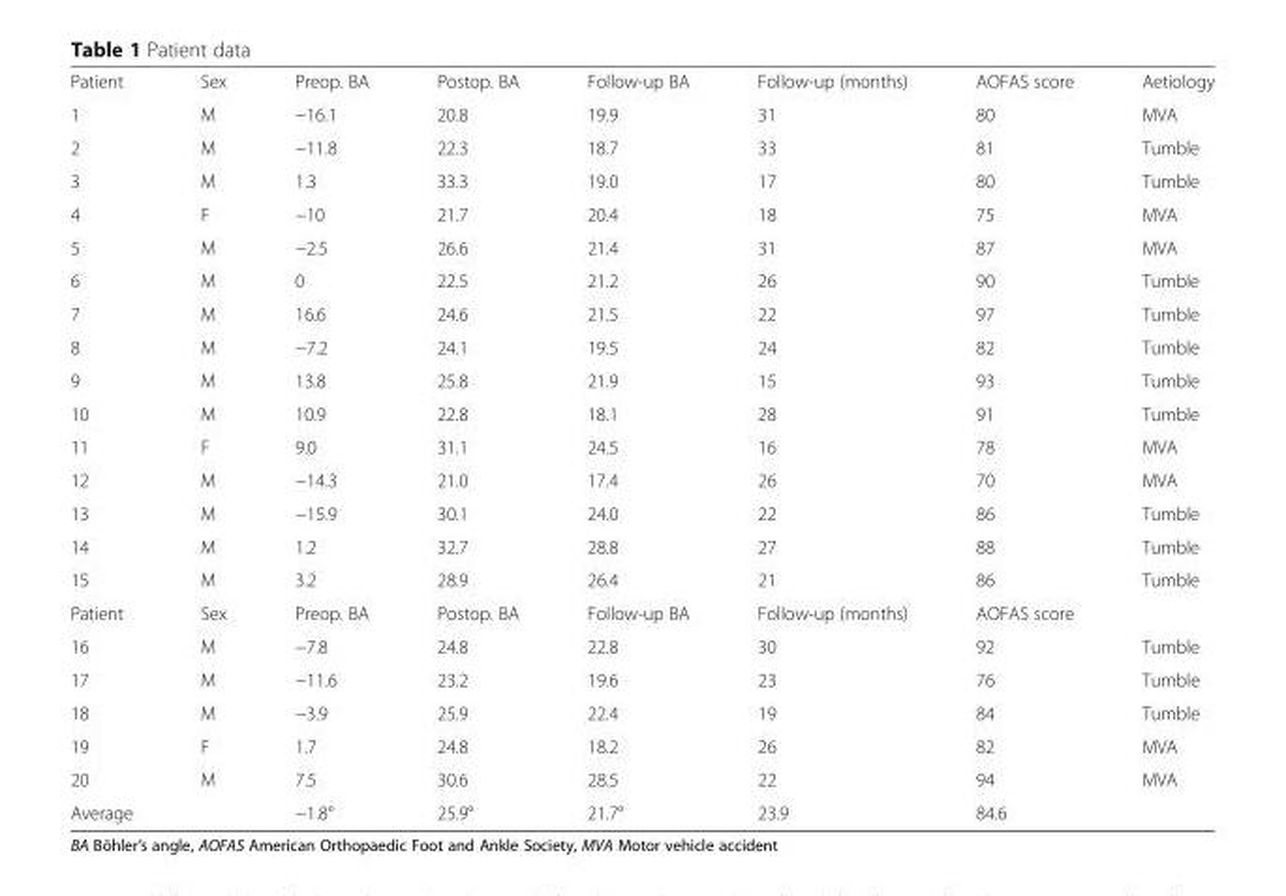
<table><tbody><tr><td>Patient</td><td>Sex</td><td>Preop. BA</td><td>Postop. BA</td><td>Follow-up BA</td><td>Follow-up (months)</td><td>AOFAS score</td><td>Aetiology</td></tr><tr><td>1</td><td>M</td><td>−16.1</td><td>20.8</td><td>19.9</td><td>31</td><td>80</td><td>MVA</td></tr><tr><td>2</td><td>M</td><td>−11.8</td><td>22.3</td><td>18.7</td><td>33</td><td>81</td><td>Tumble</td></tr><tr><td>3</td><td>M</td><td>1.3</td><td>33.3</td><td>19.0</td><td>17</td><td>80</td><td>Tumble</td></tr><tr><td>4</td><td>F</td><td>−10</td><td>21.7</td><td>20.4</td><td>18</td><td>75</td><td>MVA</td></tr><tr><td>5</td><td>M</td><td>−2.5</td><td>26.6</td><td>21.4</td><td>31</td><td>87</td><td>MVA</td></tr><tr><td>6</td><td>M</td><td>0</td><td>22.5</td><td>21.2</td><td>26</td><td>90</td><td>Tumble</td></tr><tr><td>7</td><td>M</td><td>16.6</td><td>24.6</td><td>21.5</td><td>22</td><td>97</td><td>Tumble</td></tr><tr><td>8</td><td>M</td><td>−7.2</td><td>24.1</td><td>19.5</td><td>24</td><td>82</td><td>Tumble</td></tr><tr><td>9</td><td>M</td><td>13.8</td><td>25.8</td><td>21.9</td><td>15</td><td>93</td><td>Tumble</td></tr><tr><td>10</td><td>M</td><td>10.9</td><td>22.8</td><td>18.1</td><td>28</td><td>91</td><td>Tumble</td></tr><tr><td>11</td><td>F</td><td>9.0</td><td>31.1</td><td>24.5</td><td>16</td><td>78</td><td>MVA</td></tr><tr><td>12</td><td>M</td><td>−14.3</td><td>21.0</td><td>17.4</td><td>26</td><td>70</td><td>MVA</td></tr><tr><td>13</td><td>M</td><td>−15.9</td><td>30.1</td><td>24.0</td><td>22</td><td>86</td><td>Tumble</td></tr><tr><td>14</td><td>M</td><td>1.2</td><td>32.7</td><td>28.8</td><td>27</td><td>88</td><td>Tumble</td></tr><tr><td>15</td><td>M</td><td>3.2</td><td>28.9</td><td>26.4</td><td>21</td><td>86</td><td>Tumble</td></tr><tr><td>Patient</td><td>Sex</td><td>Preop. BA</td><td>Postop. BA</td><td>Follow-up BA</td><td>Follow-up (months)</td><td>AOFAS score</td><td></td></tr><tr><td>16</td><td>M</td><td>−7.8</td><td>24.8</td><td>22.8</td><td>30</td><td>92</td><td>Tumble</td></tr><tr><td>17</td><td>M</td><td>−11.6</td><td>23.2</td><td>19.6</td><td>23</td><td>76</td><td>Tumble</td></tr><tr><td>18</td><td>M</td><td>−3.9</td><td>25.9</td><td>22.4</td><td>19</td><td>84</td><td>Tumble</td></tr><tr><td>19</td><td>F</td><td>1.7</td><td>24.8</td><td>18.2</td><td>26</td><td>82</td><td>MVA</td></tr><tr><td>20</td><td>M</td><td>7.5</td><td>30.6</td><td>28.5</td><td>22</td><td>94</td><td>MVA</td></tr><tr><td>Average</td><td></td><td>−1.8°</td><td>25.9°</td><td>21.7°</td><td>23.9</td><td>84.6</td><td></td></tr></tbody></table>